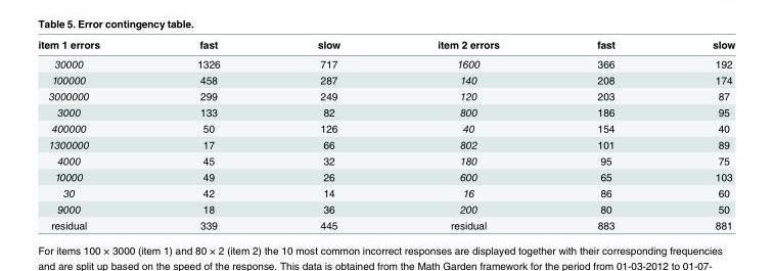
<table><thead><tr><td>item 1 errors</td><td>fast</td><td>slow</td><td>item 2 errors</td><td>fast</td><td>slow</td></tr></thead><tbody><tr><td>30000</td><td>1326</td><td>717</td><td>1600</td><td>366</td><td>192</td></tr><tr><td>100000</td><td>458</td><td>287</td><td>140</td><td>208</td><td>174</td></tr><tr><td>3000000</td><td>299</td><td>249</td><td>120</td><td>203</td><td>87</td></tr><tr><td>3000</td><td>133</td><td>82</td><td>800</td><td>186</td><td>95</td></tr><tr><td>400000</td><td>50</td><td>126</td><td>40</td><td>154</td><td>40</td></tr><tr><td>1300000</td><td>17</td><td>66</td><td>802</td><td>101</td><td>89</td></tr><tr><td>4000</td><td>45</td><td>32</td><td>180</td><td>95</td><td>75</td></tr><tr><td>10000</td><td>49</td><td>26</td><td>600</td><td>65</td><td>103</td></tr><tr><td>30</td><td>42</td><td>14</td><td>16</td><td>86</td><td>60</td></tr><tr><td>9000</td><td>18</td><td>36</td><td>200</td><td>80</td><td>50</td></tr><tr><td>residual</td><td>339</td><td>445</td><td>residual</td><td>883</td><td>881</td></tr></tbody></table>